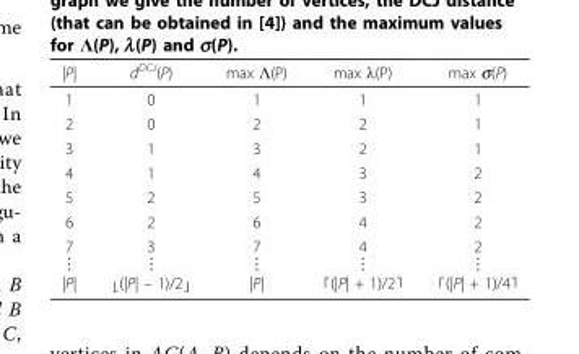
<table><thead><tr><td>|P|</td><td>d<sup>DCJ</sup>(P)</td><td>max Λ(P)</td><td>max λ(P)</td><td>max σ(P)</td></tr></thead><tbody><tr><td>1</td><td>0</td><td>1</td><td>1</td><td>1</td></tr><tr><td>2</td><td>0</td><td>2</td><td>2</td><td>1</td></tr><tr><td>3</td><td>1</td><td>3</td><td>2</td><td>1</td></tr><tr><td>4</td><td>1</td><td>4</td><td>3</td><td>2</td></tr><tr><td>5</td><td>2</td><td>5</td><td>3</td><td>2</td></tr><tr><td>6</td><td>2</td><td>6</td><td>4</td><td>2</td></tr><tr><td>7 ⋮ |P|</td><td>3 ⋮ ⌊(|P| – 1)/2⌋</td><td>7 ⋮ |P|</td><td>4 ⋮ ⌈(|P| + 1)/2⌉</td><td>2 ⋮ ⌈(|P| + 1)/4⌉</td></tr></tbody></table>